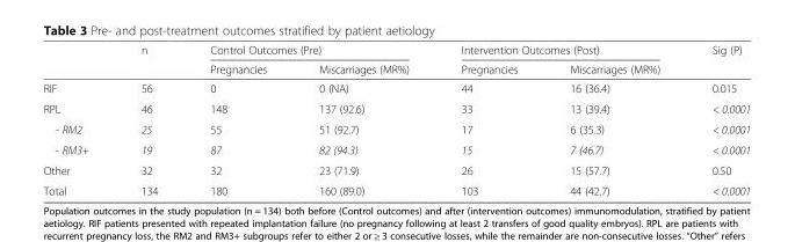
<table><thead><tr><td rowspan="2"></td><td rowspan="2">n</td><td colspan="2">Control Outcomes (Pre)</td><td colspan="2">Intervention Outcomes (Post)</td><td rowspan="2">Sig (P)</td></tr><tr><td>Pregnancies</td><td>Miscarriages (MR%)</td><td>Pregnancies</td><td>Miscarriages (MR%)</td></tr></thead><tbody><tr><td>RIF</td><td>56</td><td>0</td><td>0 (NA)</td><td>44</td><td>16 (36.4)</td><td>0.015</td></tr><tr><td>RPL</td><td>46</td><td>148</td><td>137 (92.6)</td><td>33</td><td>13 (39.4)</td><td>&lt; 0.0001</td></tr><tr><td>- RM2</td><td>25</td><td>55</td><td>51 (92.7)</td><td>17</td><td>6 (35.3)</td><td>&lt; 0.0001</td></tr><tr><td>- RM3+</td><td>19</td><td>87</td><td>82 (94.3)</td><td>15</td><td>7 (46.7)</td><td>&lt; 0.0001</td></tr><tr><td>Other</td><td>32</td><td>32</td><td>23 (71.9)</td><td>26</td><td>15 (57.7)</td><td>0.50</td></tr><tr><td>Total</td><td>134</td><td>180</td><td>160 (89.0)</td><td>103</td><td>44 (42.7)</td><td>&lt; 0.0001</td></tr></tbody></table>